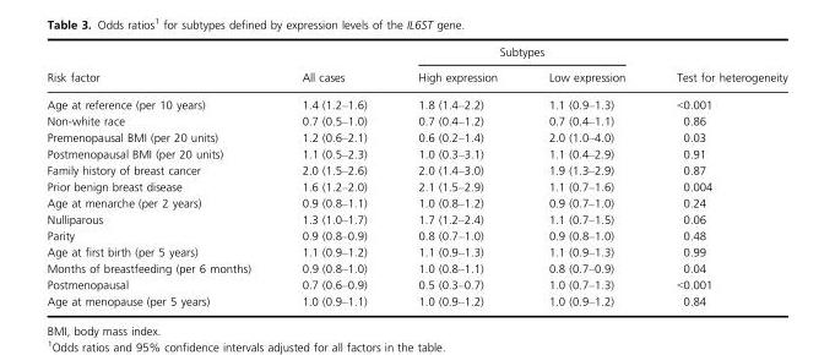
<table><thead><tr><td rowspan="2">Risk factor</td><td rowspan="2">All cases</td><td colspan="2">Subtypes</td><td rowspan="2">Test for heterogeneity</td></tr><tr><td>High expression</td><td>Low expression</td></tr></thead><tbody><tr><td>Age at reference (per 10 years)</td><td>1.4 (1.2–1.6)</td><td>1.8 (1.4–2.2)</td><td>1.1 (0.9–1.3)</td><td>&lt;0.001</td></tr><tr><td>Non-white race</td><td>0.7 (0.5–1.0)</td><td>0.7 (0.4–1.2)</td><td>0.7 (0.4–1.1)</td><td>0.86</td></tr><tr><td>Premenopausal BMI (per 20 units)</td><td>1.2 (0.6–2.1)</td><td>0.6 (0.2–1.4)</td><td>2.0 (1.0–4.0)</td><td>0.03</td></tr><tr><td>Postmenopausal BMI (per 20 units)</td><td>1.1 (0.5–2.3)</td><td>1.0 (0.3–3.1)</td><td>1.1 (0.4–2.9)</td><td>0.91</td></tr><tr><td>Family history of breast cancer</td><td>2.0 (1.5–2.6)</td><td>2.0 (1.4–3.0)</td><td>1.9 (1.3–2.9)</td><td>0.87</td></tr><tr><td>Prior benign breast disease</td><td>1.6 (1.2–2.0)</td><td>2.1 (1.5–2.9)</td><td>1.1 (0.7–1.6)</td><td>0.004</td></tr><tr><td>Age at menarche (per 2 years)</td><td>0.9 (0.8–1.1)</td><td>1.0 (0.8–1.2)</td><td>0.9 (0.7–1.0)</td><td>0.24</td></tr><tr><td>Nulliparous</td><td>1.3 (1.0–1.7)</td><td>1.7 (1.2–2.4)</td><td>1.1 (0.7–1.5)</td><td>0.06</td></tr><tr><td>Parity</td><td>0.9 (0.8–0.9)</td><td>0.8 (0.7–1.0)</td><td>0.9 (0.8–1.0)</td><td>0.48</td></tr><tr><td>Age at first birth (per 5 years)</td><td>1.1 (0.9–1.2)</td><td>1.1 (0.9–1.3)</td><td>1.1 (0.9–1.3)</td><td>0.99</td></tr><tr><td>Months of breastfeeding (per 6 months)</td><td>0.9 (0.8–1.0)</td><td>1.0 (0.8–1.1)</td><td>0.8 (0.7–0.9)</td><td>0.04</td></tr><tr><td>Postmenopausal</td><td>0.7 (0.6–0.9)</td><td>0.5 (0.3–0.7)</td><td>1.0 (0.7–1.3)</td><td>&lt;0.001</td></tr><tr><td>Age at menopause (per 5 years)</td><td>1.0 (0.9–1.1)</td><td>1.0 (0.9–1.2)</td><td>1.0 (0.9–1.2)</td><td>0.84</td></tr></tbody></table>